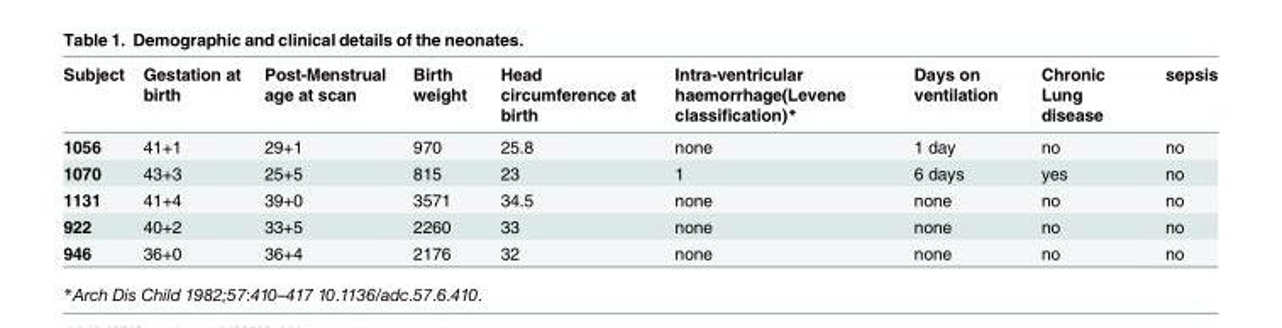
<table><thead><tr><td>Subject</td><td>Gestation at birth</td><td>Post-Menstrual age at scan</td><td>Birth weight</td><td>Head circumference at birth</td><td>Intra-ventricular haemorrhage(Levene classification)*</td><td>Days on ventilation</td><td>Chronic Lung disease</td><td>sepsis</td></tr></thead><tbody><tr><td>1056</td><td>41+1</td><td>29+1</td><td>970</td><td>25.8</td><td>none</td><td>1 day</td><td>no</td><td>no</td></tr><tr><td>1070</td><td>43+3</td><td>25+5</td><td>815</td><td>23</td><td>1</td><td>6 days</td><td>yes</td><td>no</td></tr><tr><td>1131</td><td>41+4</td><td>39+0</td><td>3571</td><td>34.5</td><td>none</td><td>none</td><td>no</td><td>no</td></tr><tr><td>922</td><td>40+2</td><td>33+5</td><td>2260</td><td>33</td><td>none</td><td>none</td><td>no</td><td>no</td></tr><tr><td>946</td><td>36+0</td><td>36+4</td><td>2176</td><td>32</td><td>none</td><td>none</td><td>no</td><td>no</td></tr></tbody></table>